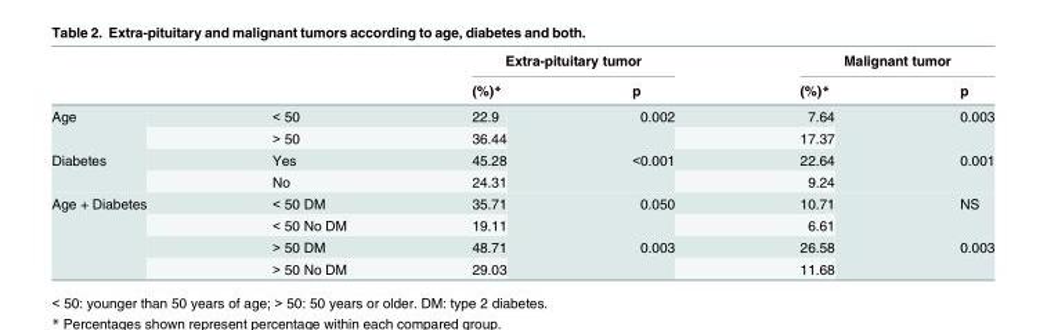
<table><thead><tr><td rowspan="2"></td><td rowspan="2"></td><td colspan="2">Extra-pituitary tumor</td><td colspan="2">Malignant tumor</td></tr><tr><td>(%)*</td><td>p</td><td>(%)*</td><td>p</td></tr></thead><tbody><tr><td rowspan="2">Age</td><td>&lt; 50</td><td>22.9</td><td rowspan="2">0.002</td><td>7.64</td><td rowspan="2">0.003</td></tr><tr><td>&gt; 50</td><td>36.44</td><td>17.37</td></tr><tr><td rowspan="2">Diabetes</td><td>Yes</td><td>45.28</td><td rowspan="2">&lt;0.001</td><td>22.64</td><td rowspan="2">0.001</td></tr><tr><td>No</td><td>24.31</td><td>9.24</td></tr><tr><td rowspan="4">Age + Diabetes</td><td>&lt; 50 DM</td><td>35.71</td><td rowspan="2">0.050</td><td>10.71</td><td rowspan="2">NS</td></tr><tr><td>&lt; 50 No DM</td><td>19.11</td><td>6.61</td></tr><tr><td>&gt; 50 DM</td><td>48.71</td><td rowspan="2">0.003</td><td>26.58</td><td rowspan="2">0.003</td></tr><tr><td>&gt; 50 No DM</td><td>29.03</td><td>11.68</td></tr></tbody></table>